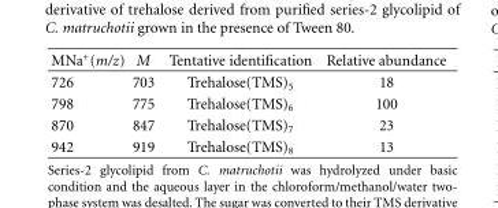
<table><thead><tr><td>MNa<sup>+</sup>(m/z)</td><td>M</td><td>Tentative identification</td><td>Relative abundance</td></tr></thead><tbody><tr><td>726</td><td>703</td><td>Trehalose(TMS)<sub>5</sub></td><td>18</td></tr><tr><td>798</td><td>775</td><td>Trehalose(TMS)<sub>6</sub></td><td>100</td></tr><tr><td>870</td><td>847</td><td>Trehalose(TMS)<sub>7</sub></td><td>23</td></tr><tr><td>942</td><td>919</td><td>Trehalose(TMS)<sub>8</sub></td><td>13</td></tr></tbody></table>